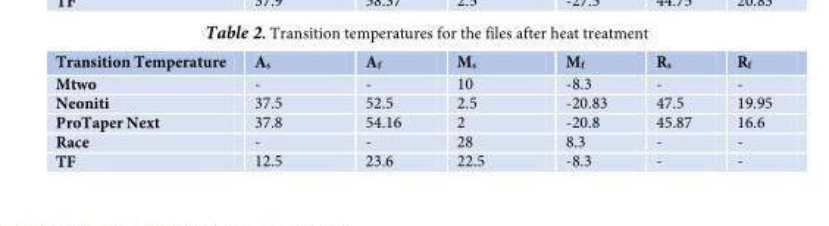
<table><thead><tr><td>Transition Temperature</td><td>A<sub>s</sub></td><td>A<sub>f</sub></td><td>M<sub>s</sub></td><td>M<sub>f</sub></td><td>R<sub>s</sub></td><td>R<sub>f</sub></td></tr></thead><tbody><tr><td>Mtwo</td><td>-</td><td>-</td><td>10</td><td>-8.3</td><td>-</td><td>-</td></tr><tr><td>Neoniti</td><td>37.5</td><td>52.5</td><td>2.5</td><td>-20.83</td><td>47.5</td><td>19.95</td></tr><tr><td>ProTaper Next</td><td>37.8</td><td>54.16</td><td>2</td><td>-20.8</td><td>45.87</td><td>16.6</td></tr><tr><td>Race</td><td>-</td><td>-</td><td>28</td><td>8.3</td><td>-</td><td>-</td></tr><tr><td>TF</td><td>12.5</td><td>23.6</td><td>22.5</td><td>-8.3</td><td>-</td><td>-</td></tr></tbody></table>